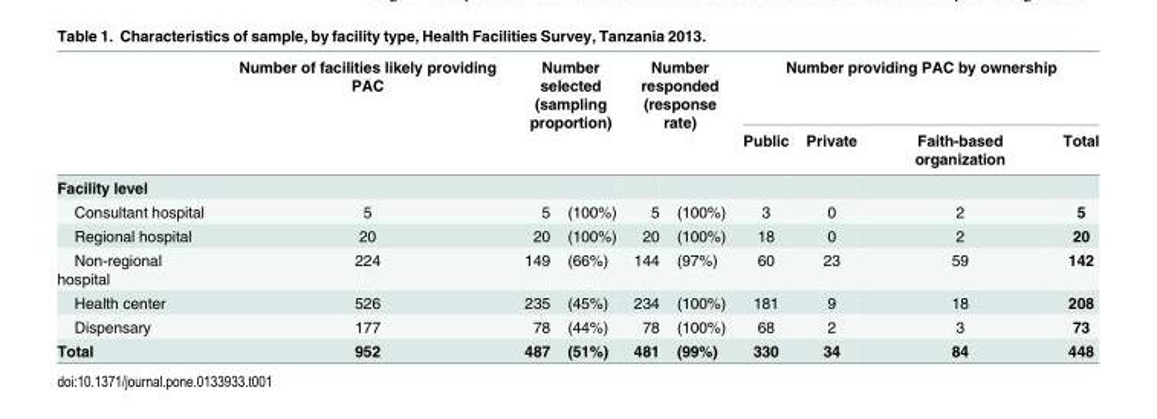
<table><thead><tr><td rowspan="2"></td><td rowspan="2">Number of facilities likely providing PAC</td><td colspan="2">Number selected (sampling proportion)</td><td colspan="2">Number responded (response rate)</td><td colspan="4">Number providing PAC by ownership</td></tr><tr><td></td><td></td><td></td><td></td><td>Public</td><td>Private</td><td>Faith-based organization</td><td>Total</td></tr></thead><tbody><tr><td colspan="10">Facility level</td></tr><tr><td>Consultant hospital</td><td>5</td><td>5</td><td>(100%)</td><td>5</td><td>(100%)</td><td>3</td><td>0</td><td>2</td><td>5</td></tr><tr><td>Regional hospital</td><td>20</td><td>20</td><td>(100%)</td><td>20</td><td>(100%)</td><td>18</td><td>0</td><td>2</td><td>20</td></tr><tr><td>Non-regional hospital</td><td>224</td><td>149</td><td>(66%)</td><td>144</td><td>(97%)</td><td>60</td><td>23</td><td>59</td><td>142</td></tr><tr><td>Health center</td><td>526</td><td>235</td><td>(45%)</td><td>234</td><td>(100%)</td><td>181</td><td>9</td><td>18</td><td>208</td></tr><tr><td>Dispensary</td><td>177</td><td>78</td><td>(44%)</td><td>78</td><td>(100%)</td><td>68</td><td>2</td><td>3</td><td>73</td></tr><tr><td>Total</td><td>952</td><td>487</td><td>(51%)</td><td>481</td><td>(99%)</td><td>330</td><td>34</td><td>84</td><td>448</td></tr></tbody></table>